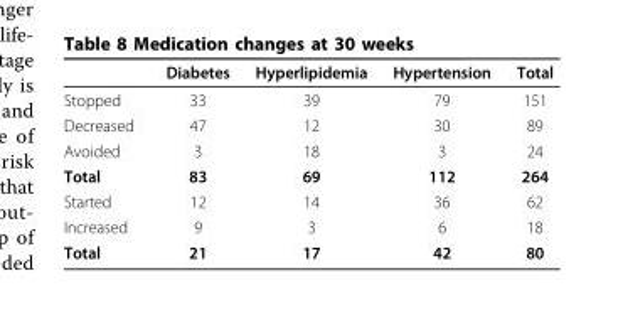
<table><thead><tr><td></td><td>Diabetes</td><td>Hyperlipidemia</td><td>Hypertension</td><td>Total</td></tr></thead><tbody><tr><td>Stopped</td><td>33</td><td>39</td><td>79</td><td>151</td></tr><tr><td>Decreased</td><td>47</td><td>12</td><td>30</td><td>89</td></tr><tr><td>Avoided</td><td>3</td><td>18</td><td>3</td><td>24</td></tr><tr><td>Total</td><td>83</td><td>69</td><td>112</td><td>264</td></tr><tr><td>Started</td><td>12</td><td>14</td><td>36</td><td>62</td></tr><tr><td>Increased</td><td>9</td><td>3</td><td>6</td><td>18</td></tr><tr><td>Total</td><td>21</td><td>17</td><td>42</td><td>80</td></tr></tbody></table>